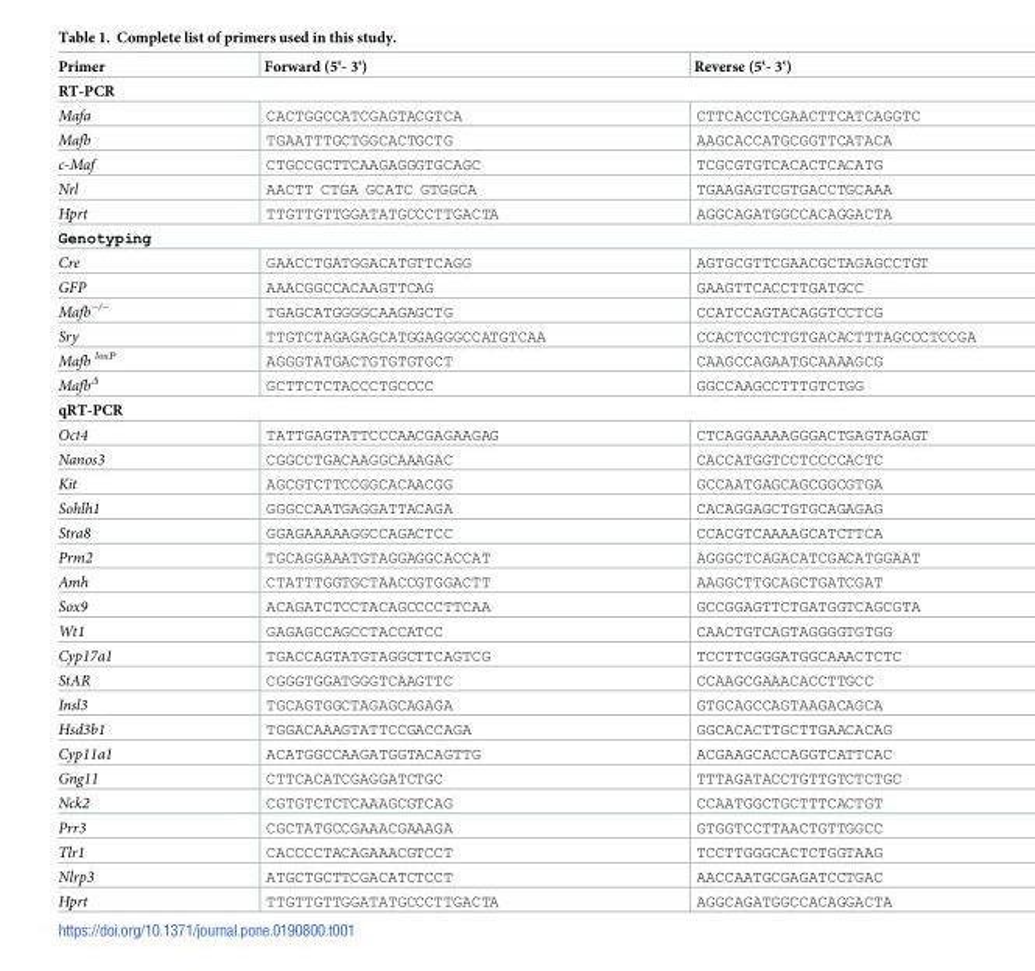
<table><thead><tr><td>Primer</td><td>Forward (5‘- 3‘)</td><td>Reverse (5‘- 3‘)</td></tr></thead><tbody><tr><td colspan="3">RT-PCR</td></tr><tr><td>Mafa</td><td>CACTGGCCATCGAGTACGTCA</td><td>CTTCACCTCGAACTTCATCAGGTC</td></tr><tr><td>Mafb</td><td>TGAATTTGCTGGCACTGCTG</td><td>AAGCACCATGCGGTTCATACA</td></tr><tr><td>c-Maf</td><td>CTGCCGCTTCAAGAGGGTGCAGC</td><td>TCGCGTGTCACACTCACATG</td></tr><tr><td>Nrl</td><td>AACTT CTGA GCATC GTGGCA</td><td>TGAAGAGTCGTGACCTGCAAA</td></tr><tr><td>Hprt</td><td>TTGTTGTTGGATATGCCCTTGACTA</td><td>AGGCAGATGGCCACAGGACTA</td></tr><tr><td colspan="3">Genotyping</td></tr><tr><td>Cre</td><td>GAACCTGATGGACATGTTCAGG</td><td>AGTGCGTTCGAACGCTAGAGCCTGT</td></tr><tr><td>GFP</td><td>AAACGGCCACAAGTTCAG</td><td>GAAGTTCACCTTGATGCC</td></tr><tr><td>Mafb<sup>−/−</sup></td><td>TGAGCATGGGGCAAGAGCTG</td><td>CCATCCAGTACAGGTCCTCG</td></tr><tr><td>Sry</td><td>TTGTCTAGAGAGCATGGAGGGCCATGTCAA</td><td>CCACTCCTCTGTGACACTTTAGCCCTCCGA</td></tr><tr><td>Mafb <sup>loxP</sup></td><td>AGGGTATGACTGTGTGTGCT</td><td>CAAGCCAGAATGCAAAAGCG</td></tr><tr><td>Mafb<sup>Δ</sup></td><td>GCTTCTCTACCCTGCCCC</td><td>GGCCAAGCCTTTGTCTGG</td></tr><tr><td colspan="3">qRT-PCR</td></tr><tr><td>Oct4</td><td>TATTGAGTATTCCCAACGAGAAGAG</td><td>CTCAGGAAAAGGGACTGAGTAGAGT</td></tr><tr><td>Nanos3</td><td>CGGCCTGACAAGGCAAAGAC</td><td>CACCATGGTCCTCCCCACTC</td></tr><tr><td>Kit</td><td>AGCGTCTTCCGGCACAACGG</td><td>GCCAATGAGCAGCGGCGTGA</td></tr><tr><td>Sohlh1</td><td>GGGCCAATGAGGATTACAGA</td><td>CACAGGAGCTGTGCAGAGAG</td></tr><tr><td>Stra8</td><td>GGAGAAAAAGGCCAGACTCC</td><td>CCACGTCAAAAGCATCTTCA</td></tr><tr><td>Prm2</td><td>TGCAGGAAATGTAGGAGGCACCAT</td><td>AGGGCTCAGACATCGACATGGAAT</td></tr><tr><td>Amh</td><td>CTATTTGGTGCTAACCGTGGACTT</td><td>AAGGCTTGCAGCTGATCGAT</td></tr><tr><td>Sox9</td><td>ACAGATCTCCTACAGCCCCTTCAA</td><td>GCCGGAGTTCTGATGGTCAGCGTA</td></tr><tr><td>Wt1</td><td>GAGAGCCAGCCTACCATCC</td><td>CAACTGTCAGTAGGGGTGTGG</td></tr><tr><td>Cyp17a1</td><td>TGACCAGTATGTAGGCTTCAGTCG</td><td>TCCTTCGGGATGGCAAACTCTC</td></tr><tr><td>StAR</td><td>CGGGTGGATGGGTCAAGTTC</td><td>CCAAGCGAAACACCTTGCC</td></tr><tr><td>Insl3</td><td>TGCAGTGGCTAGAGCAGAGA</td><td>GTGCAGCCAGTAAGACAGCA</td></tr><tr><td>Hsd3b1</td><td>TGGACAAAGTATTCCGACCAGA</td><td>GGCACACTTGCTTGAACACAG</td></tr><tr><td>Cyp11a1</td><td>ACATGGCCAAGATGGTACAGTTG</td><td>ACGAAGCACCAGGTCATTCAC</td></tr><tr><td>Gng11</td><td>CTTCACATCGAGGATCTGC</td><td>TTTAGATACCTGTTGTCTCTGC</td></tr><tr><td>Nck2</td><td>CGTGTCTCTCAAAGCGTCAG</td><td>CCAATGGCTGCTTTCACTGT</td></tr><tr><td>Prr3</td><td>CGCTATGCCGAAACGAAAGA</td><td>GTGGTCCTTAACTGTTGGCC</td></tr><tr><td>Tlr1</td><td>CACCCCTACAGAAACGTCCT</td><td>TCCTTGGGCACTCTGGTAAG</td></tr><tr><td>Nlrp3</td><td>ATGCTGCTTCGACATCTCCT</td><td>AACCAATGCGAGATCCTGAC</td></tr><tr><td>Hprt</td><td>TTGTTGTTGGATATGCCCTTGACTA</td><td>AGGCAGATGGCCACAGGACTA</td></tr></tbody></table>